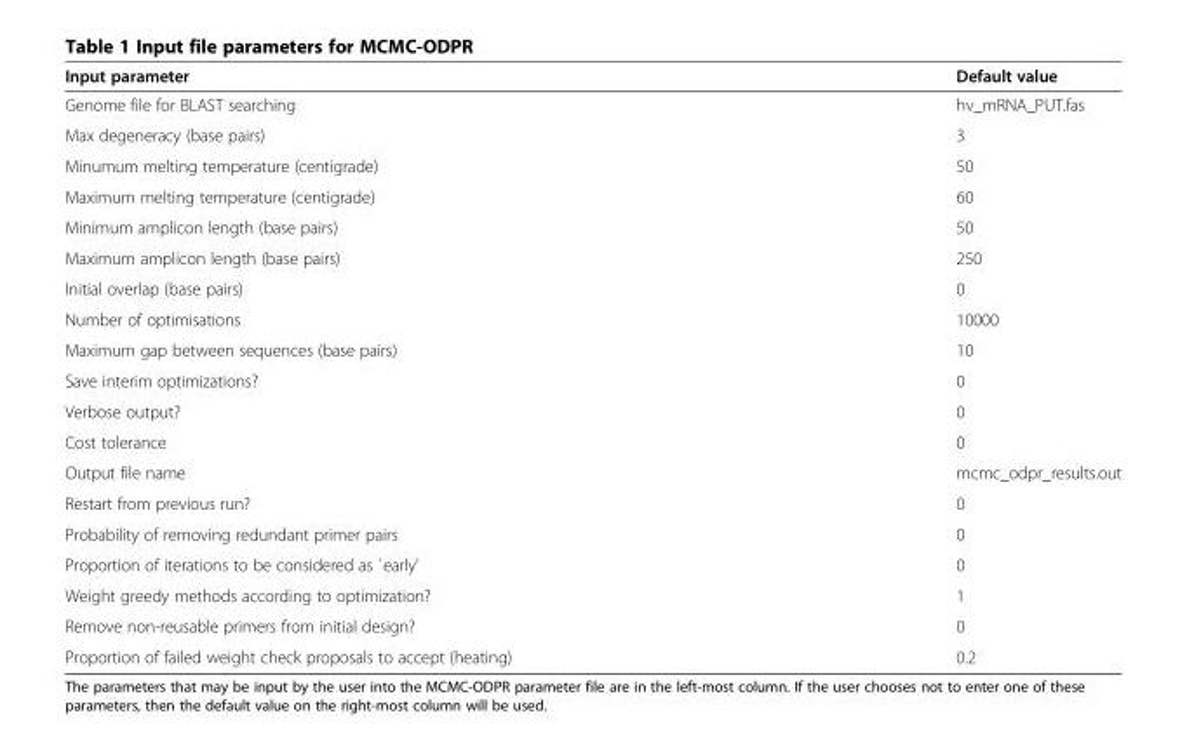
<table><thead><tr><td>Input parameter</td><td>Default value</td></tr></thead><tbody><tr><td>Genome file for BLAST searching</td><td>hv_mRNA_PUT.fas</td></tr><tr><td>Max degeneracy (base pairs)</td><td>3</td></tr><tr><td>Minumum melting temperature (centigrade)</td><td>50</td></tr><tr><td>Maximum melting temperature (centigrade)</td><td>60</td></tr><tr><td>Minimum amplicon length (base pairs)</td><td>50</td></tr><tr><td>Maximum amplicon length (base pairs)</td><td>250</td></tr><tr><td>Initial overlap (base pairs)</td><td>0</td></tr><tr><td>Number of optimisations</td><td>10000</td></tr><tr><td>Maximum gap between sequences (base pairs)</td><td>10</td></tr><tr><td>Save interim optimizations?</td><td>0</td></tr><tr><td>Verbose output?</td><td>0</td></tr><tr><td>Cost tolerance</td><td>0</td></tr><tr><td>Output file name</td><td>mcmc_odpr_results.out</td></tr><tr><td>Restart from previous run?</td><td>0</td></tr><tr><td>Probability of removing redundant primer pairs</td><td>0</td></tr><tr><td>Proportion of iterations to be considered as `early&#x27;</td><td>0</td></tr><tr><td>Weight greedy methods according to optimization?</td><td>1</td></tr><tr><td>Remove non-reusable primers from initial design?</td><td>0</td></tr><tr><td>Proportion of failed weight check proposals to accept (heating)</td><td>0.2</td></tr></tbody></table>